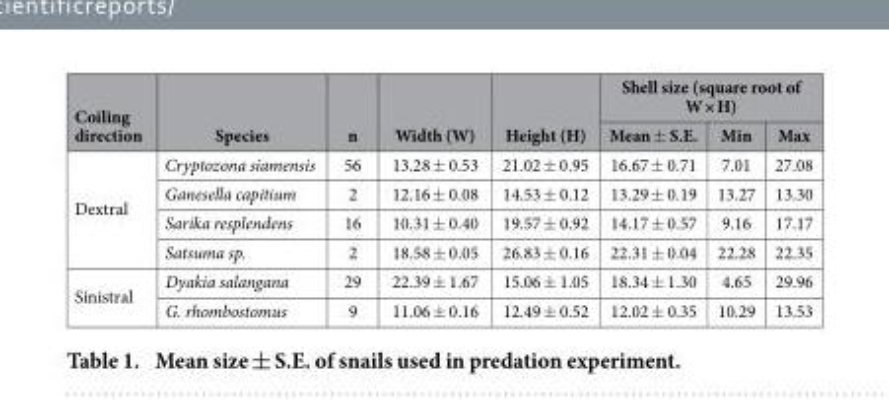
<table><thead><tr><td rowspan="2">Coiling direction</td><td rowspan="2">Species</td><td rowspan="2">n</td><td rowspan="2">Width (W)</td><td rowspan="2">Height (H)</td><td colspan="3">Shell size (square root of W × H)</td></tr><tr><td>Mean ± S.E.</td><td>Min</td><td>Max</td></tr></thead><tbody><tr><td rowspan="4">Dextral</td><td>Cryptozona siamensis</td><td>56</td><td>13.28 ± 0.53</td><td>21.02 ± 0.95</td><td>16.67 ± 0.71</td><td>7.01</td><td>27.08</td></tr><tr><td>Ganesella capitium</td><td>2</td><td>12.16 ± 0.08</td><td>14.53 ± 0.12</td><td>13.29 ± 0.19</td><td>13.27</td><td>13.30</td></tr><tr><td>Sarika resplendens</td><td>16</td><td>10.31 ± 0.40</td><td>19.57 ± 0.92</td><td>14.17 ± 0.57</td><td>9.16</td><td>17.17</td></tr><tr><td>Satsuma sp.</td><td>2</td><td>18.58 ± 0.05</td><td>26.83 ± 0.16</td><td>22.31 ± 0.04</td><td>22.28</td><td>22.35</td></tr><tr><td rowspan="2">Sinistral</td><td>Dyakia salangana</td><td>29</td><td>22.39 ± 1.67</td><td>15.06 ± 1.05</td><td>18.34 ± 1.30</td><td>4.65</td><td>29.96</td></tr><tr><td>G. rhombostomus</td><td>9</td><td>11.06 ± 0.16</td><td>12.49 ± 0.52</td><td>12.02 ± 0.35</td><td>10.29</td><td>13.53</td></tr></tbody></table>